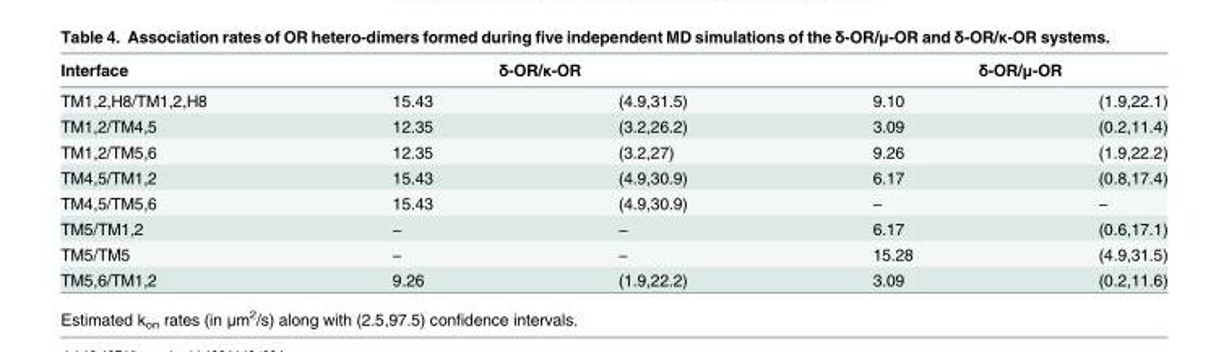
<table><thead><tr><td rowspan="2">Interface TM1,2,H8/TM1,2,H8</td><td colspan="2">δ-OR/κ-OR</td><td colspan="2">δ-OR/μ-OR</td></tr><tr><td>15.43</td><td>(4.9,31.5)</td><td>9.10</td><td>(1.9,22.1)</td></tr></thead><tbody><tr><td>TM1,2/TM4,5</td><td>12.35</td><td>(3.2,26.2)</td><td>3.09</td><td>(0.2,11.4)</td></tr><tr><td>TM1,2/TM5,6</td><td>12.35</td><td>(3.2,27)</td><td>9.26</td><td>(1.9,22.2)</td></tr><tr><td>TM4,5/TM1,2</td><td>15.43</td><td>(4.9,30.9)</td><td>6.17</td><td>(0.8,17.4)</td></tr><tr><td>TM4,5/TM5,6</td><td>15.43</td><td>(4.9,30.9)</td><td>―</td><td>―</td></tr><tr><td>TM5/TM1,2</td><td>―</td><td>―</td><td>6.17</td><td>(0.6,17.1)</td></tr><tr><td>TM5/TM5</td><td>―</td><td>―</td><td>15.28</td><td>(4.9,31.5)</td></tr><tr><td>TM5,6/TM1,2</td><td>9.26</td><td>(1.9,22.2)</td><td>3.09</td><td>(0.2,11.6)</td></tr></tbody></table>